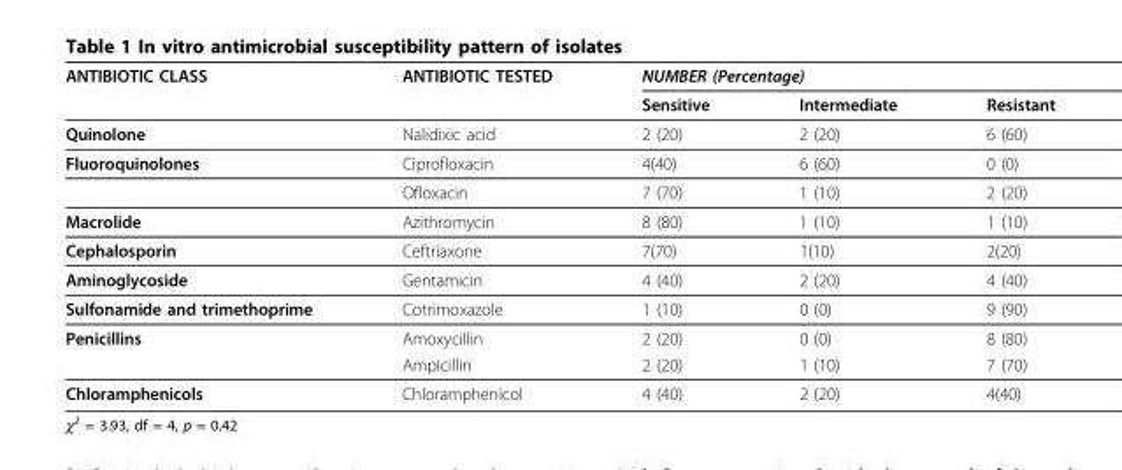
<table><thead><tr><td rowspan="2">ANTIBIOTIC CLASS</td><td rowspan="2">ANTIBIOTIC TESTED</td><td colspan="3">NUMBER (Percentage)</td></tr><tr><td>Sensitive</td><td>Intermediate</td><td>Resistant</td></tr></thead><tbody><tr><td>Quinolone</td><td>Nalidixic acid</td><td>2 (20)</td><td>2 (20)</td><td>6 (60)</td></tr><tr><td rowspan="2">Fluoroquinolones</td><td>Ciprofloxacin</td><td>4(40)</td><td>6 (60)</td><td>0 (0)</td></tr><tr><td>Ofloxacin</td><td>7 (70)</td><td>1 (10)</td><td>2 (20)</td></tr><tr><td>Macrolide</td><td>Azithromycin</td><td>8 (80)</td><td>1 (10)</td><td>1 (10)</td></tr><tr><td>Cephalosporin</td><td>Ceftriaxone</td><td>7(70)</td><td>1(10)</td><td>2(20)</td></tr><tr><td>Aminoglycoside</td><td>Gentamicin</td><td>4 (40)</td><td>2 (20)</td><td>4 (40)</td></tr><tr><td>Sulfonamide and trimethoprime</td><td>Cotrimoxazole</td><td>1 (10)</td><td>0 (0)</td><td>9 (90)</td></tr><tr><td rowspan="2">Penicillins</td><td>Amoxycillin</td><td>2 (20)</td><td>0 (0)</td><td>8 (80)</td></tr><tr><td>Ampicillin</td><td>2 (20)</td><td>1 (10)</td><td>7 (70)</td></tr><tr><td>Chloramphenicols</td><td>Chloramphenicol</td><td>4 (40)</td><td>2 (20)</td><td>4(40)</td></tr></tbody></table>